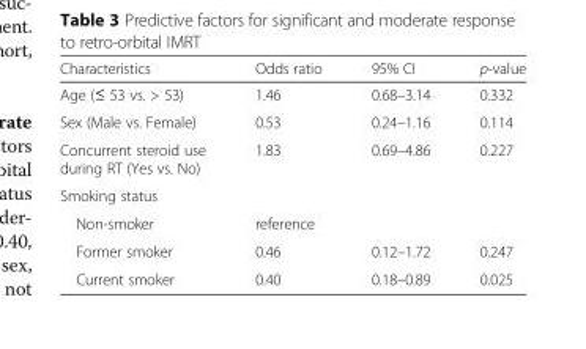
<table><thead><tr><td>Characteristics</td><td>Odds ratio</td><td>95% CI</td><td>p-value</td></tr></thead><tbody><tr><td>Age (≤ 53 vs. &gt; 53)</td><td>1.46</td><td>0.68–3.14</td><td>0.332</td></tr><tr><td>Sex (Male vs. Female)</td><td>0.53</td><td>0.24–1.16</td><td>0.114</td></tr><tr><td>Concurrent steroid use during RT (Yes vs. No)</td><td>1.83</td><td>0.69–4.86</td><td>0.227</td></tr><tr><td colspan="4">Smoking status</td></tr><tr><td>Non-smoker</td><td>reference</td><td></td><td></td></tr><tr><td>Former smoker</td><td>0.46</td><td>0.12–1.72</td><td>0.247</td></tr><tr><td>Current smoker</td><td>0.40</td><td>0.18–0.89</td><td>0.025</td></tr></tbody></table>